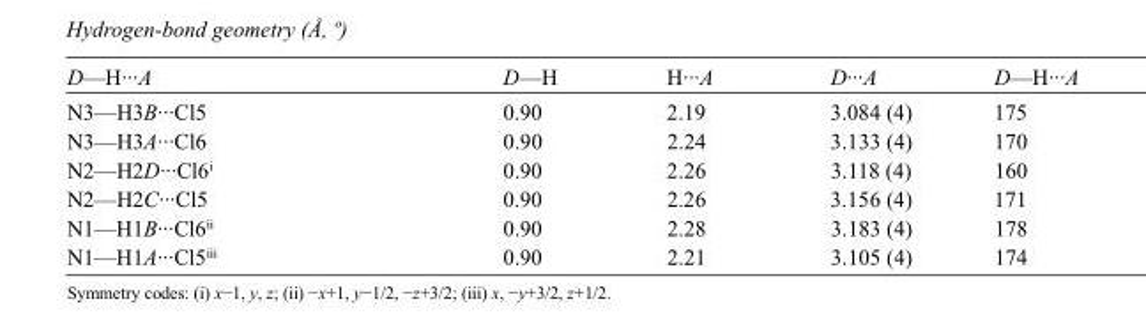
<table><tbody><tr><td>D—H···A</td><td>D—H</td><td>H···A</td><td>D···A</td><td>D—H···A</td></tr><tr><td>N3—H3B···Cl5</td><td>0.90</td><td>2.19</td><td>3.084 (4)</td><td>175</td></tr><tr><td>N3—H3A···Cl6</td><td>0.90</td><td>2.24</td><td>3.133 (4)</td><td>170</td></tr><tr><td>N2—H2D···Cl6<sup>i</sup></td><td>0.90</td><td>2.26</td><td>3.118 (4)</td><td>160</td></tr><tr><td>N2—H2C···Cl5</td><td>0.90</td><td>2.26</td><td>3.156 (4)</td><td>171</td></tr><tr><td>N1—H1B···Cl6<sup>ii</sup></td><td>0.90</td><td>2.28</td><td>3.183 (4)</td><td>178</td></tr><tr><td>N1—H1A···Cl5<sup>iii</sup></td><td>0.90</td><td>2.21</td><td>3.105 (4)</td><td>174</td></tr></tbody></table>